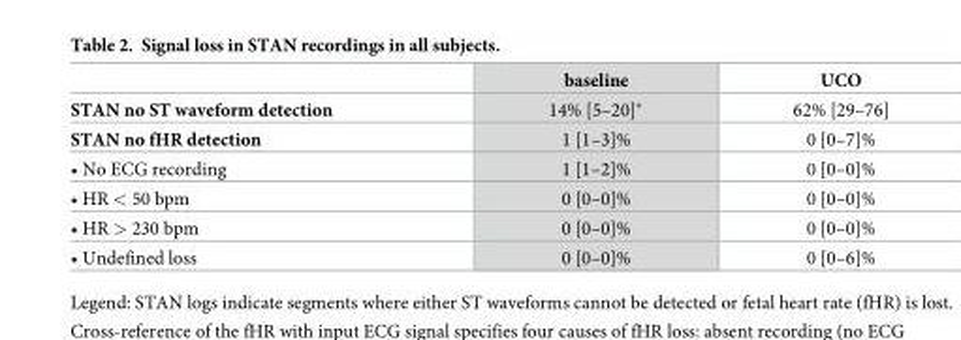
<table><thead><tr><td></td><td>baseline</td><td>UCO</td></tr></thead><tbody><tr><td>STAN no ST waveform detection</td><td>14% [5–20]*</td><td>62% [29–76]</td></tr><tr><td>STAN no fHR detection</td><td>1 [1–3]%</td><td>0 [0–7]%</td></tr><tr><td>• No ECG recording</td><td>1 [1–2]%</td><td>0 [0–0]%</td></tr><tr><td>• HR &lt; 50 bpm</td><td>0 [0–0]%</td><td>0 [0–0]%</td></tr><tr><td>• HR &gt; 230 bpm</td><td>0 [0–0]%</td><td>0 [0–0]%</td></tr><tr><td>• Undefined loss</td><td>0 [0–0]%</td><td>0 [0–6]%</td></tr></tbody></table>